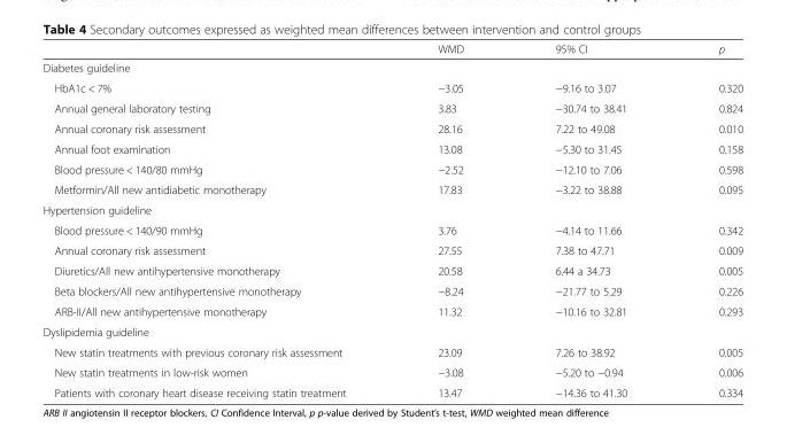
<table><thead><tr><td></td><td>WMD</td><td>95% CI</td><td>p</td></tr></thead><tbody><tr><td colspan="4">Diabetes guideline</td></tr><tr><td>HbA1c &lt; 7%</td><td>−3.05</td><td>−9.16 to 3.07</td><td>0.320</td></tr><tr><td>Annual general laboratory testing</td><td>3.83</td><td>−30.74 to 38.41</td><td>0.824</td></tr><tr><td>Annual coronary risk assessment</td><td>28.16</td><td>7.22 to 49.08</td><td>0.010</td></tr><tr><td>Annual foot examination</td><td>13.08</td><td>−5.30 to 31.45</td><td>0.158</td></tr><tr><td>Blood pressure &lt; 140/80 mmHg</td><td>−2.52</td><td>−12.10 to 7.06</td><td>0.598</td></tr><tr><td>Metformin/All new antidiabetic monotherapy</td><td>17.83</td><td>−3.22 to 38.88</td><td>0.095</td></tr><tr><td colspan="4">Hypertension guideline</td></tr><tr><td>Blood pressure &lt; 140/90 mmHg</td><td>3.76</td><td>−4.14 to 11.66</td><td>0.342</td></tr><tr><td>Annual coronary risk assessment</td><td>27.55</td><td>7.38 to 47.71</td><td>0.009</td></tr><tr><td>Diuretics/All new antihypertensive monotherapy</td><td>20.58</td><td>6.44 a 34.73</td><td>0.005</td></tr><tr><td>Beta blockers/All new antihypertensive monotherapy</td><td>−8.24</td><td>−21.77 to 5.29</td><td>0.226</td></tr><tr><td>ARB-II/All new antihypertensive monotherapy</td><td>11.32</td><td>−10.16 to 32.81</td><td>0.293</td></tr><tr><td colspan="4">Dyslipidemia guideline</td></tr><tr><td>New statin treatments with previous coronary risk assessment</td><td>23.09</td><td>7.26 to 38.92</td><td>0.005</td></tr><tr><td>New statin treatments in low-risk women</td><td>−3.08</td><td>−5.20 to −0.94</td><td>0.006</td></tr><tr><td>Patients with coronary heart disease receiving statin treatment</td><td>13.47</td><td>−14.36 to 41.30</td><td>0.334</td></tr></tbody></table>